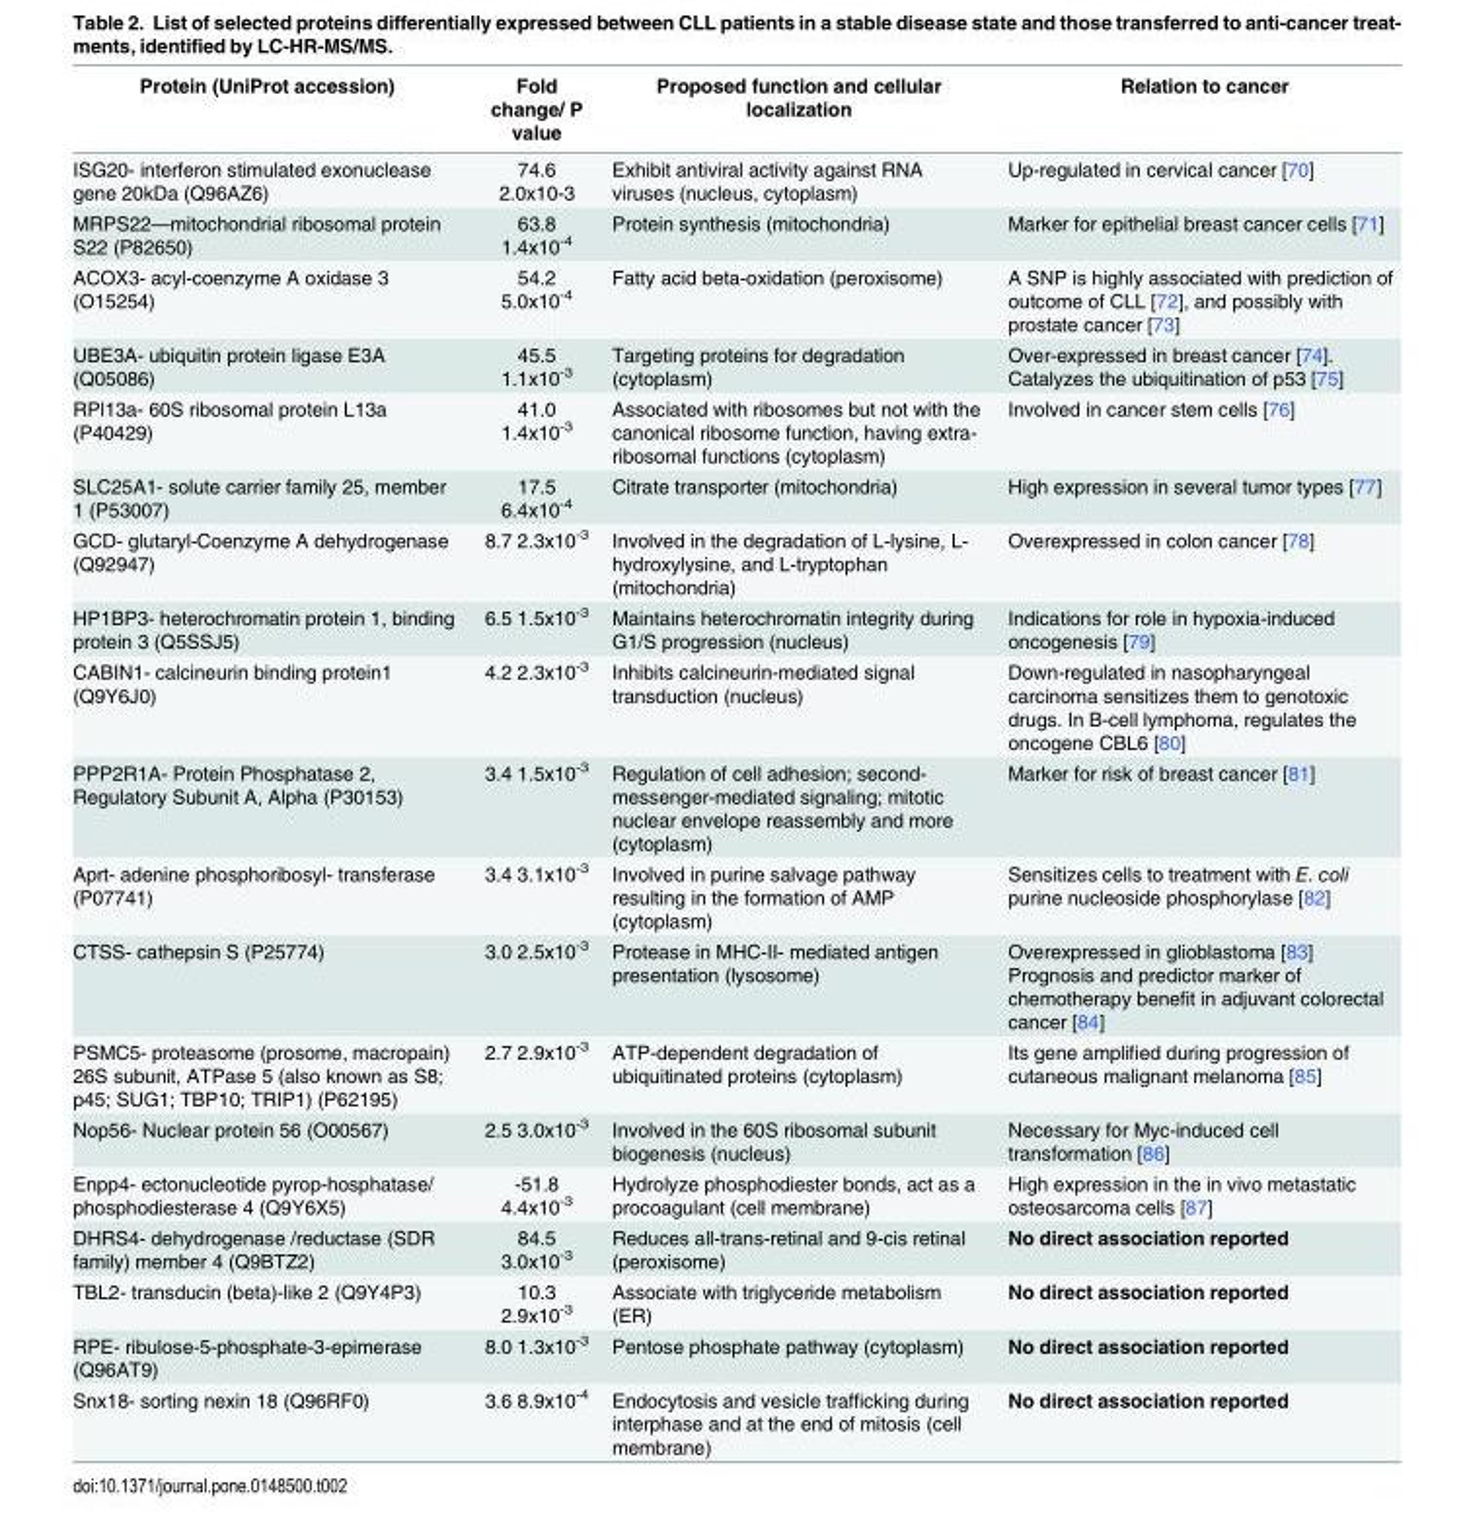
<table><thead><tr><td>Protein (UniProt accession)</td><td>Fold change/ P value</td><td>Proposed function and cellular localization</td><td>Relation to cancer</td></tr></thead><tbody><tr><td>ISG20- interferon stimulated exonuclease gene 20kDa (Q96AZ6)</td><td>74.6 2.0x10-3</td><td>Exhibit antiviral activity against RNA viruses (nucleus, cytoplasm)</td><td>Up-regulated in cervical cancer [70]</td></tr><tr><td>MRPS22—mitochondrial ribosomal protein S22 (P82650)</td><td>63.8 1.4x10<sup>-4</sup></td><td>Protein synthesis (mitochondria)</td><td>Marker for epithelial breast cancer cells [71]</td></tr><tr><td>ACOX3- acyl-coenzyme A oxidase 3 (O15254)</td><td>54.2 5.0x10<sup>-4</sup></td><td>Fatty acid beta-oxidation (peroxisome)</td><td>A SNP is highly associated with prediction of outcome of CLL [72], and possibly with prostate cancer [73]</td></tr><tr><td>UBE3A- ubiquitin protein ligase E3A (Q05086)</td><td>45.5 1.1x10<sup>-3</sup></td><td>Targeting proteins for degradation (cytoplasm)</td><td>Over-expressed in breast cancer [74]. Catalyzes the ubiquitination of p53 [75]</td></tr><tr><td>RPl13a- 60S ribosomal protein L13a (P40429)</td><td>41.0 1.4x10<sup>-3</sup></td><td>Associated with ribosomes but not with the canonical ribosome function, having extra- ribosomal functions (cytoplasm)</td><td>Involved in cancer stem cells [76]</td></tr><tr><td>SLC25A1- solute carrier family 25, member 1 (P53007)</td><td>17.5 6.4x10<sup>-4</sup></td><td>Citrate transporter (mitochondria)</td><td>High expression in several tumor types [77]</td></tr><tr><td>GCD- glutaryl-Coenzyme A dehydrogenase (Q92947)</td><td>8.7 2.3x10<sup>-3</sup></td><td>Involved in the degradation of L-lysine, L- hydroxylysine, and L-tryptophan (mitochondria)</td><td>Overexpressed in colon cancer [78]</td></tr><tr><td>HP1BP3- heterochromatin protein 1, binding protein 3 (Q5SSJ5)</td><td>6.5 1.5x10<sup>-3</sup></td><td>Maintains heterochromatin integrity during G1/S progression (nucleus)</td><td>Indications for role in hypoxia-induced oncogenesis [79]</td></tr><tr><td>CABIN1- calcineurin binding protein1 (Q9Y6J0)</td><td>4.2 2.3x10<sup>-3</sup></td><td>Inhibits calcineurin-mediated signal transduction (nucleus)</td><td>Down-regulated in nasopharyngeal carcinoma sensitizes them to genotoxic drugs. In B-cell lymphoma, regulates the oncogene CBL6 [80]</td></tr><tr><td>PPP2R1A- Protein Phosphatase 2, Regulatory Subunit A, Alpha (P30153)</td><td>3.4 1.5x10<sup>-3</sup></td><td>Regulation of cell adhesion; second- messenger-mediated signaling; mitotic nuclear envelope reassembly and more (cytoplasm)</td><td>Marker for risk of breast cancer [81]</td></tr><tr><td>Aprt- adenine phosphoribosyl- transferase (P07741)</td><td>3.4 3.1x10<sup>-3</sup></td><td>Involved in purine salvage pathway resulting in the formation of AMP (cytoplasm)</td><td>Sensitizes cells to treatment with E. coli purine nucleoside phosphorylase [82]</td></tr><tr><td>CTSS- cathepsin S (P25774)</td><td>3.0 2.5x10<sup>-3</sup></td><td>Protease in MHC-II- mediated antigen presentation (lysosome)</td><td>Overexpressed in glioblastoma [83] Prognosis and predictor marker of chemotherapy benefit in adjuvant colorectal cancer [84]</td></tr><tr><td>PSMC5- proteasome (prosome, macropain) 26S subunit, ATPase 5 (also known as S8; p45; SUG1; TBP10; TRIP1) (P62195)</td><td>2.7 2.9x10<sup>-3</sup></td><td>ATP-dependent degradation of ubiquitinated proteins (cytoplasm)</td><td>Its gene amplified during progression of cutaneous malignant melanoma [85]</td></tr><tr><td>Nop56- Nuclear protein 56 (O00567)</td><td>2.5 3.0x10<sup>-3</sup></td><td>Involved in the 60S ribosomal subunit biogenesis (nucleus)</td><td>Necessary for Myc-induced cell transformation [86]</td></tr><tr><td>Enpp4- ectonucleotide pyrop-hosphatase/ phosphodiesterase 4 (Q9Y6X5)</td><td>-51.8 4.4x10<sup>-3</sup></td><td>Hydrolyze phosphodiester bonds, act as a procoagulant (cell membrane)</td><td>High expression in the in vivo metastatic osteosarcoma cells [87]</td></tr><tr><td>DHRS4- dehydrogenase /reductase (SDR family) member 4 (Q9BTZ2)</td><td>84.5 3.0x10<sup>-3</sup></td><td>Reduces all-trans-retinal and 9-cis retinal (peroxisome)</td><td>No direct association reported</td></tr><tr><td>TBL2- transducin (beta)-like 2 (Q9Y4P3)</td><td>10.3 2.9x10<sup>-3</sup></td><td>Associate with triglyceride metabolism (ER)</td><td>No direct association reported</td></tr><tr><td>RPE- ribulose-5-phosphate-3-epimerase (Q96AT9)</td><td>8.0 1.3x10<sup>-3</sup></td><td>Pentose phosphate pathway (cytoplasm)</td><td>No direct association reported</td></tr><tr><td>Snx18- sorting nexin 18 (Q96RF0)</td><td>3.6 8.9x10<sup>-4</sup></td><td>Endocytosis and vesicle trafficking during interphase and at the end of mitosis (cell membrane)</td><td>No direct association reported</td></tr></tbody></table>